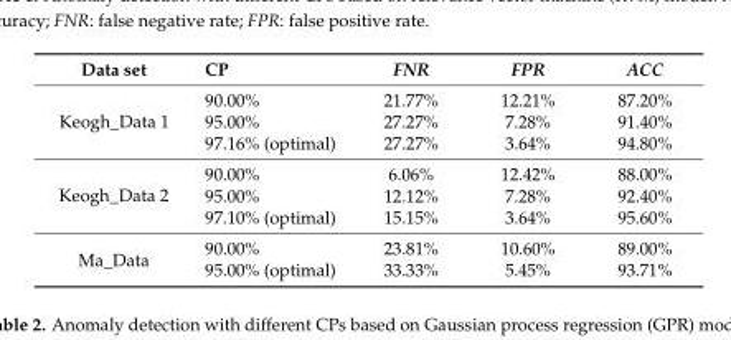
<table><thead><tr><td>Data set</td><td>CP</td><td>FNR</td><td>FPR</td><td>ACC</td></tr></thead><tbody><tr><td rowspan="3">Keogh_Data 1</td><td>90.00%</td><td>21.77%</td><td>12.21%</td><td>87.20%</td></tr><tr><td>95.00%</td><td>27.27%</td><td>7.28%</td><td>91.40%</td></tr><tr><td>97.16% (optimal)</td><td>27.27%</td><td>3.64%</td><td>94.80%</td></tr><tr><td rowspan="3">Keogh_Data 2</td><td>90.00%</td><td>6.06%</td><td>12.42%</td><td>88.00%</td></tr><tr><td>95.00%</td><td>12.12%</td><td>7.28%</td><td>92.40%</td></tr><tr><td>97.10% (optimal)</td><td>15.15%</td><td>3.64%</td><td>95.60%</td></tr><tr><td rowspan="2">Ma_Data</td><td>90.00%</td><td>23.81%</td><td>10.60%</td><td>89.00%</td></tr><tr><td>95.00% (optimal)</td><td>33.33%</td><td>5.45%</td><td>93.71%</td></tr></tbody></table>